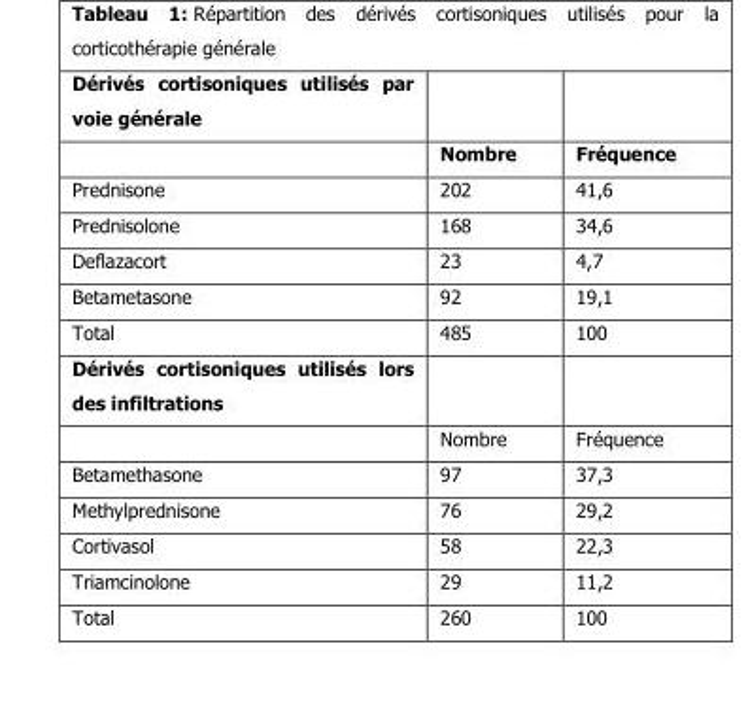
<table><tbody><tr><td colspan="3">Dérivés cortisoniques utilisés par voie générale</td></tr><tr><td></td><td>Nombre</td><td>Fréquence</td></tr><tr><td>Prednisone</td><td>202</td><td>41,6</td></tr><tr><td>Prednisolone</td><td>168</td><td>34,6</td></tr><tr><td>Deflazacort</td><td>23</td><td>4,7</td></tr><tr><td>Betametasone</td><td>92</td><td>19,1</td></tr><tr><td>Total</td><td>485</td><td>100</td></tr><tr><td colspan="3">Dérivés cortisoniques utilisés lors des infiltrations</td></tr><tr><td></td><td>Nombre</td><td>Fréquence</td></tr><tr><td>Betamethasone</td><td>97</td><td>37,3</td></tr><tr><td>Methylprednisone</td><td>76</td><td>29,2</td></tr><tr><td>Cortivasol</td><td>58</td><td>22,3</td></tr><tr><td>Triamcinolone</td><td>29</td><td>11,2</td></tr><tr><td>Total</td><td>260</td><td>100</td></tr></tbody></table>